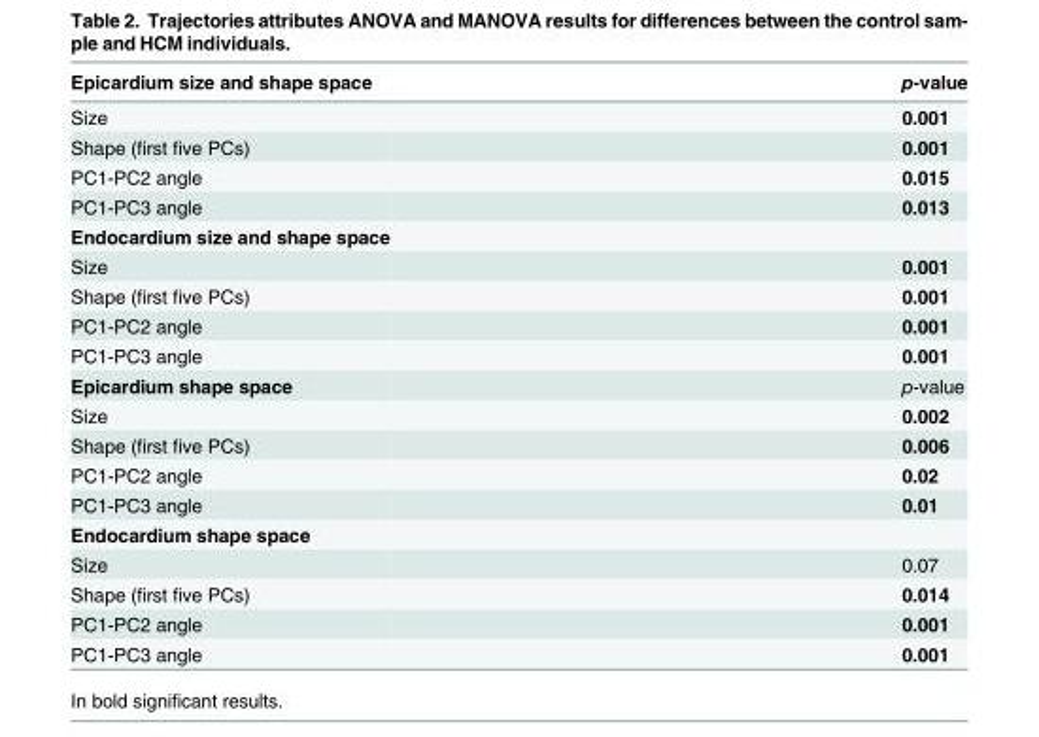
<table><thead><tr><td>Epicardium size and shape space</td><td>p-value</td></tr></thead><tbody><tr><td>Size</td><td>0.001</td></tr><tr><td>Shape (first five PCs)</td><td>0.001</td></tr><tr><td>PC1-PC2 angle</td><td>0.015</td></tr><tr><td>PC1-PC3 angle</td><td>0.013</td></tr><tr><td colspan="2">Endocardium size and shape space</td></tr><tr><td>Size</td><td>0.001</td></tr><tr><td>Shape (first five PCs)</td><td>0.001</td></tr><tr><td>PC1-PC2 angle</td><td>0.001</td></tr><tr><td>PC1-PC3 angle</td><td>0.001</td></tr><tr><td>Epicardium shape space</td><td>p-value</td></tr><tr><td>Size</td><td>0.002</td></tr><tr><td>Shape (first five PCs)</td><td>0.006</td></tr><tr><td>PC1-PC2 angle</td><td>0.02</td></tr><tr><td>PC1-PC3 angle</td><td>0.01</td></tr><tr><td colspan="2">Endocardium shape space</td></tr><tr><td>Size</td><td>0.07</td></tr><tr><td>Shape (first five PCs)</td><td>0.014</td></tr><tr><td>PC1-PC2 angle</td><td>0.001</td></tr><tr><td>PC1-PC3 angle</td><td>0.001</td></tr></tbody></table>